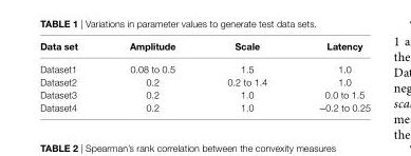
<table><thead><tr><td>data set</td><td>Amplitude</td><td>scale</td><td>Latency</td></tr></thead><tbody><tr><td>Dataset1</td><td>0.08 to 0.5</td><td>1.5</td><td>1.0</td></tr><tr><td>Dataset2</td><td>0.2</td><td>0.2 to 1.4</td><td>1.0</td></tr><tr><td>Dataset3</td><td>0.2</td><td>1.0</td><td>0.0 to 1.5</td></tr><tr><td>Dataset4</td><td>0.2</td><td>1.0</td><td>−0.2 to 0.25</td></tr></tbody></table>